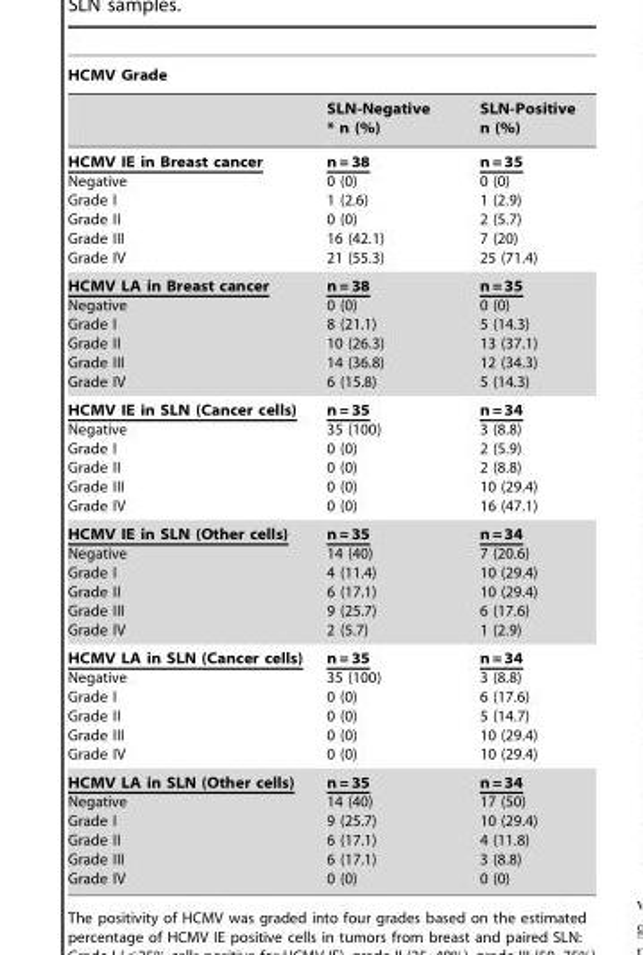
<table><thead><tr><td colspan="3">HCMV Grade</td></tr><tr><td></td><td>SLN-Negative * n (%)</td><td>SLN-Positive n (%)</td></tr></thead><tbody><tr><td>HCMV IE in Breast cancer Negative Grade I Grade II Grade III Grade IV</td><td>n = 38 0 (0) 1 (2.6) 0 (0) 16 (42.1) 21 (55.3)</td><td>n = 35 0 (0) 1 (2.9) 2 (5.7) 7 (20) 25 (71.4)</td></tr><tr><td>HCMV LA in Breast cancer Negative Grade I Grade II Grade III Grade IV</td><td>n = 38 0 (0) 8 (21.1) 10 (26.3) 14 (36.8) 6 (15.8)</td><td>n = 35 0 (0) 5 (14.3) 13 (37.1) 12 (34.3) 5 (14.3)</td></tr><tr><td>HCMV IE in SLN (Cancer cells) Negative Grade I Grade II Grade III Grade IV</td><td>n = 35 35 (100) 0 (0) 0 (0) 0 (0) 0 (0)</td><td>n = 34 3 (8.8) 2 (5.9) 2 (8.8) 10 (29.4) 16 (47.1)</td></tr><tr><td>HCMV IE in SLN (Other cells) Negative Grade I Grade II Grade III Grade IV</td><td>n = 35 14 (40) 4 (11.4) 6 (17.1) 9 (25.7) 2 (5.7)</td><td>n = 34 7 (20.6) 10 (29.4) 10 (29.4) 6 (17.6) 1 (2.9)</td></tr><tr><td>HCMV LA in SLN (Cancer cells) Negative Grade I Grade II Grade III Grade IV</td><td>n = 35 35 (100) 0 (0) 0 (0) 0 (0) 0 (0)</td><td>n = 34 3 (8.8) 6 (17.6) 5 (14.7) 10 (29.4) 10 (29.4)</td></tr><tr><td>HCMV LA in SLN (Other cells) Negative Grade I Grade II Grade III Grade IV</td><td>n = 35 14 (40) 9 (25.7) 6 (17.1) 6 (17.1) 0 (0)</td><td>n = 34 17 (50) 10 (29.4) 4 (11.8) 3 (8.8) 0 (0)</td></tr></tbody></table>